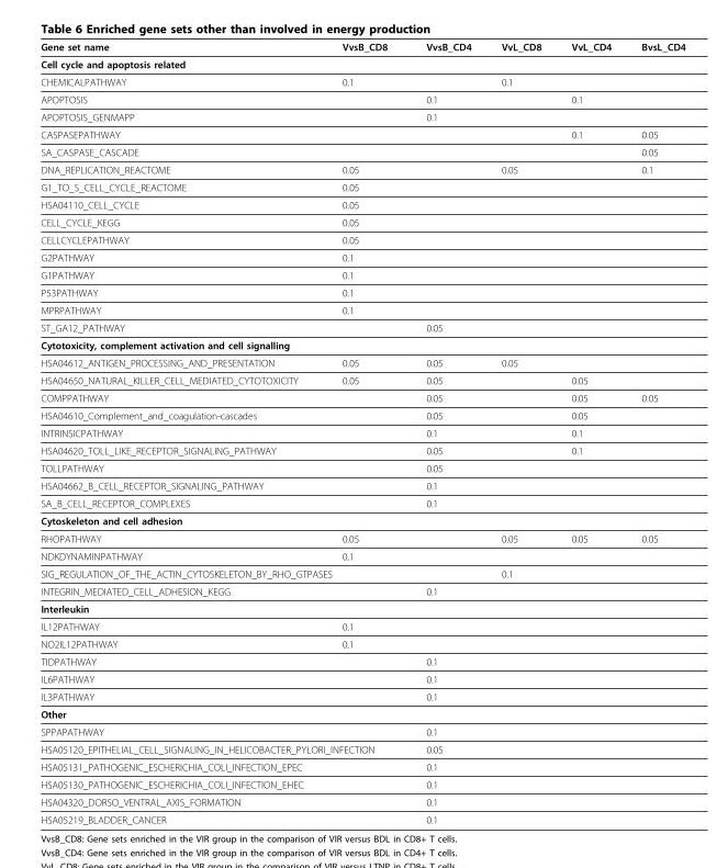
<table><thead><tr><td>Gene set name</td><td>VvsB_CD8</td><td>VvsB_CD4</td><td>VvL_CD8</td><td>VvL_CD4</td><td>BvsL_CD4</td></tr></thead><tbody><tr><td colspan="6">Cell cycle and apoptosis related</td></tr><tr><td>CHEMICALPATHWAY</td><td>0.1</td><td></td><td>0.1</td><td></td><td></td></tr><tr><td>APOPTOSIS</td><td></td><td>0.1</td><td></td><td>0.1</td><td></td></tr><tr><td>APOPTOSIS_GENMAPP</td><td></td><td>0.1</td><td></td><td></td><td></td></tr><tr><td>CASPASEPATHWAY</td><td></td><td></td><td></td><td>0.1</td><td>0.05</td></tr><tr><td>SA_CASPASE_CASCADE</td><td></td><td></td><td></td><td></td><td>0.05</td></tr><tr><td>DNA_REPLICATION_REACTOME</td><td>0.05</td><td></td><td>0.05</td><td></td><td>0.1</td></tr><tr><td>G1_TO_S_CELL_CYCLE_REACTOME</td><td>0.05</td><td></td><td></td><td></td><td></td></tr><tr><td>HSA04110_CELL_CYCLE</td><td>0.05</td><td></td><td></td><td></td><td></td></tr><tr><td>CELL_CYCLE_KEGG</td><td>0.05</td><td></td><td></td><td></td><td></td></tr><tr><td>CELLCYCLEPATHWAY</td><td>0.05</td><td></td><td></td><td></td><td></td></tr><tr><td>G2PATHWAY</td><td>0.1</td><td></td><td></td><td></td><td></td></tr><tr><td>G1PATHWAY</td><td>0.1</td><td></td><td></td><td></td><td></td></tr><tr><td>P53PATHWAY</td><td>0.1</td><td></td><td></td><td></td><td></td></tr><tr><td>MPRPATHWAY</td><td>0.1</td><td></td><td></td><td></td><td></td></tr><tr><td>ST_GA12_PATHWAY</td><td></td><td>0.05</td><td></td><td></td><td></td></tr><tr><td colspan="6">Cytotoxicity, complement activation and cell signalling</td></tr><tr><td>HSA04612_ANTIGEN_PROCESSING_AND_PRESENTATION</td><td>0.05</td><td>0.05</td><td>0.05</td><td></td><td></td></tr><tr><td>HSA04650_NATURAL_KILLER_CELL_MEDIATED_CYTOTOXICITY</td><td>0.05</td><td>0.05</td><td></td><td>0.05</td><td></td></tr><tr><td>COMPPATHWAY</td><td></td><td>0.05</td><td></td><td>0.05</td><td>0.05</td></tr><tr><td>HSA04610_Complement_and_coagulation-cascades</td><td></td><td>0.05</td><td></td><td>0.05</td><td></td></tr><tr><td>INTRINSICPATHWAY</td><td></td><td>0.1</td><td></td><td>0.1</td><td></td></tr><tr><td>HSA04620_TOLL_LIKE_RECEPTOR_SIGNALING_PATHWAY</td><td></td><td>0.05</td><td></td><td>0.1</td><td></td></tr><tr><td>TOLLPATHWAY</td><td></td><td>0.05</td><td></td><td></td><td></td></tr><tr><td>HSA04662_B_CELL_RECEPTOR_SIGNALING_PATHWAY</td><td></td><td>0.1</td><td></td><td></td><td></td></tr><tr><td>SA_B_CELL_RECEPTOR_COMPLEXES</td><td></td><td>0.1</td><td></td><td></td><td></td></tr><tr><td colspan="6">Cytoskeleton and cell adhesion</td></tr><tr><td>RHOPATHWAY</td><td>0.05</td><td></td><td>0.05</td><td>0.05</td><td>0.05</td></tr><tr><td>NDKDYNAMINPATHWAY</td><td>0.1</td><td></td><td></td><td></td><td></td></tr><tr><td colspan="2">SIG_REGULATION_OF_THE_ACTIN_CYTOSKELETON_BY_RHO_GTPASES</td><td></td><td>0.1</td><td></td><td></td></tr><tr><td>INTEGRIN_MEDIATED_CELL_ADHESION_KEGG</td><td></td><td>0.1</td><td></td><td></td><td></td></tr><tr><td colspan="6">Interleukin</td></tr><tr><td>IL12PATHWAY</td><td>0.1</td><td></td><td></td><td></td><td></td></tr><tr><td>NO2IL12PATHWAY</td><td>0.1</td><td></td><td></td><td></td><td></td></tr><tr><td>TIDPATHWAY</td><td></td><td>0.1</td><td></td><td></td><td></td></tr><tr><td>IL6PATHWAY</td><td></td><td>0.1</td><td></td><td></td><td></td></tr><tr><td>IL3PATHWAY</td><td></td><td>0.1</td><td></td><td></td><td></td></tr><tr><td colspan="6">Other</td></tr><tr><td>SPPAPATHWAY</td><td></td><td>0.1</td><td></td><td></td><td></td></tr><tr><td colspan="2">HSA05120_EPITHELIAL_CELL_SIGNALING_IN_HELICOBACTER_PYLORI_INFECTION</td><td>0.05</td><td></td><td></td><td></td></tr><tr><td>HSA05131_PATHOGENIC_ESCHERICHIA_COLI_INFECTION_EPEC</td><td></td><td>0.1</td><td></td><td></td><td></td></tr><tr><td>HSA05130_PATHOGENIC_ESCHERICHIA_COLI_INFECTION_EHEC</td><td></td><td>0.1</td><td></td><td></td><td></td></tr><tr><td>HSA04320_DORSO_VENTRAL_AXIS_FORMATION</td><td></td><td>0.1</td><td></td><td></td><td></td></tr><tr><td>HSA05219_BLADDER_CANCER</td><td></td><td>0.1</td><td></td><td></td><td></td></tr></tbody></table>